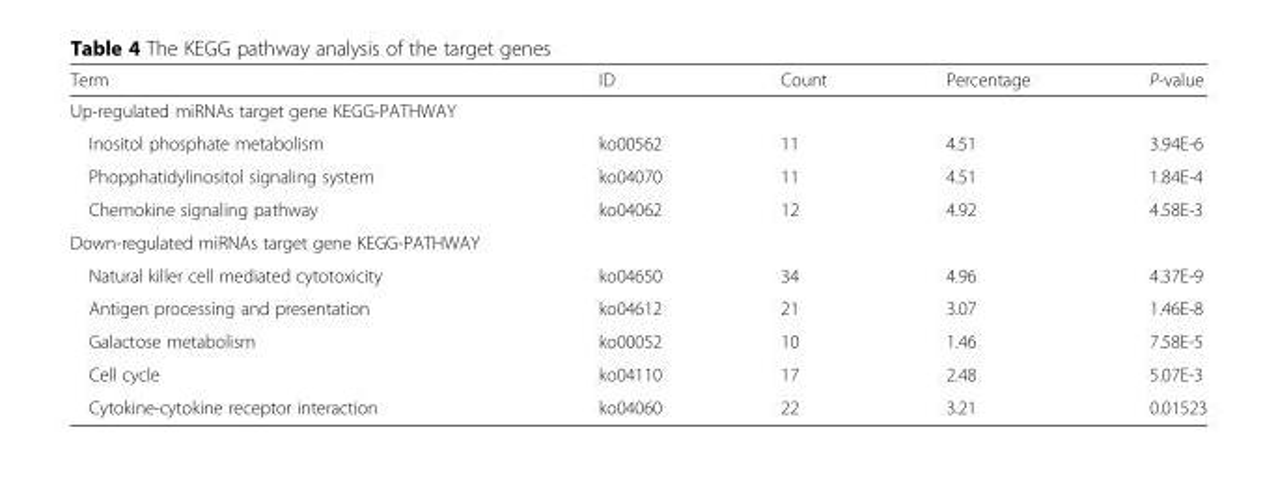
<table><thead><tr><td>Term</td><td>ID</td><td>Count</td><td>Percentage</td><td>P-value</td></tr></thead><tbody><tr><td colspan="5">Up-regulated miRNAs target gene KEGG-PATHWAY</td></tr><tr><td>Inositol phosphate metabolism</td><td>ko00562</td><td>11</td><td>4.51</td><td>3.94E-6</td></tr><tr><td>Phopphatidylinositol signaling system</td><td>ko04070</td><td>11</td><td>4.51</td><td>1.84E-4</td></tr><tr><td>Chemokine signaling pathway</td><td>ko04062</td><td>12</td><td>4.92</td><td>4.58E-3</td></tr><tr><td colspan="5">Down-regulated miRNAs target gene KEGG-PATHWAY</td></tr><tr><td>Natural killer cell mediated cytotoxicity</td><td>ko04650</td><td>34</td><td>4.96</td><td>4.37E-9</td></tr><tr><td>Antigen processing and presentation</td><td>ko04612</td><td>21</td><td>3.07</td><td>1.46E-8</td></tr><tr><td>Galactose metabolism</td><td>ko00052</td><td>10</td><td>1.46</td><td>7.58E-5</td></tr><tr><td>Cell cycle</td><td>ko04110</td><td>17</td><td>2.48</td><td>5.07E-3</td></tr><tr><td>Cytokine-cytokine receptor interaction</td><td>ko04060</td><td>22</td><td>3.21</td><td>0.01523</td></tr></tbody></table>